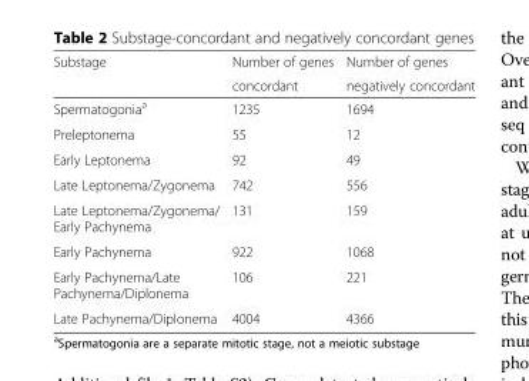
<table><thead><tr><td rowspan="2">Substage</td><td rowspan="2">Number of genes concordant</td><td rowspan="2">Number of genes negatively concordant</td></tr><tr></tr></thead><tbody><tr><td>Spermatogonia<sup>a</sup></td><td>1235</td><td>1694</td></tr><tr><td>Preleptonema</td><td>55</td><td>12</td></tr><tr><td>Early Leptonema</td><td>92</td><td>49</td></tr><tr><td>Late Leptonema/Zygonema</td><td>742</td><td>556</td></tr><tr><td>Late Leptonema/Zygonema/ Early Pachynema</td><td>131</td><td>159</td></tr><tr><td>Early Pachynema</td><td>922</td><td>1068</td></tr><tr><td>Early Pachynema/Late Pachynema/Diplonema</td><td>106</td><td>221</td></tr><tr><td>Late Pachynema/Diplonema</td><td>4004</td><td>4366</td></tr></tbody></table>